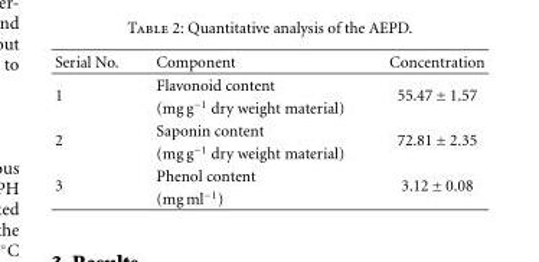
<table><thead><tr><td>Serial No.</td><td>Component</td><td>Concentration</td></tr></thead><tbody><tr><td rowspan="2">1</td><td>Flavonoid content</td><td rowspan="2">55.47 ± 1.57</td></tr><tr><td>(mg g−1 dry weight material)</td></tr><tr><td rowspan="2">2</td><td>Saponin content</td><td rowspan="2">72.81 ± 2.35</td></tr><tr><td>(mg g−1 dry weight material)</td></tr><tr><td rowspan="2">3</td><td>Phenol content</td><td rowspan="2">3.12 ± 0.08</td></tr><tr><td>(mg ml−1)</td></tr></tbody></table>